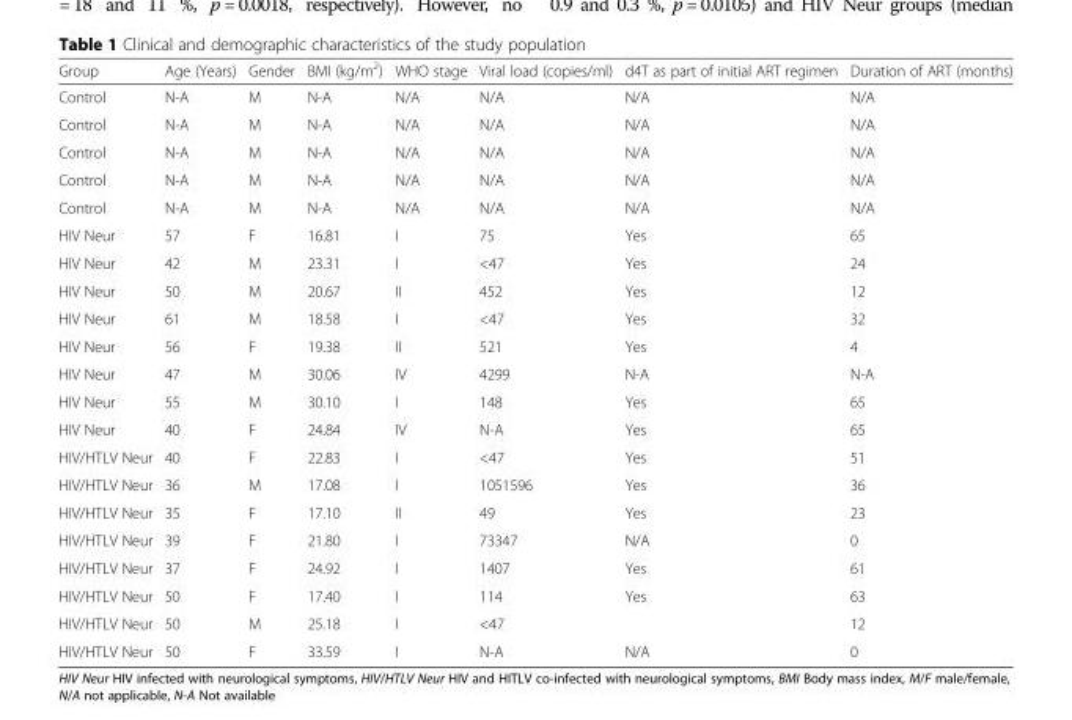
<table><thead><tr><td>Group</td><td>Age (Years)</td><td>Gender</td><td>BMI (kg/m<sup>2</sup>)</td><td>WHO stage</td><td>Viral load (copies/ml)</td><td>d4T as part of initial ART regimen</td><td>Duration of ART (months)</td></tr></thead><tbody><tr><td>Control</td><td>N-A</td><td>M</td><td>N-A</td><td>N/A</td><td>N/A</td><td>N/A</td><td>N/A</td></tr><tr><td>Control</td><td>N-A</td><td>M</td><td>N-A</td><td>N/A</td><td>N/A</td><td>N/A</td><td>N/A</td></tr><tr><td>Control</td><td>N-A</td><td>M</td><td>N-A</td><td>N/A</td><td>N/A</td><td>N/A</td><td>N/A</td></tr><tr><td>Control</td><td>N-A</td><td>M</td><td>N-A</td><td>N/A</td><td>N/A</td><td>N/A</td><td>N/A</td></tr><tr><td>Control</td><td>N-A</td><td>M</td><td>N-A</td><td>N/A</td><td>N/A</td><td>N/A</td><td>N/A</td></tr><tr><td>HIV Neur</td><td>57</td><td>F</td><td>16.81</td><td>I</td><td>75</td><td>Yes</td><td>65</td></tr><tr><td>HIV Neur</td><td>42</td><td>M</td><td>23.31</td><td>I</td><td>&lt;47</td><td>Yes</td><td>24</td></tr><tr><td>HIV Neur</td><td>50</td><td>M</td><td>20.67</td><td>II</td><td>452</td><td>Yes</td><td>12</td></tr><tr><td>HIV Neur</td><td>61</td><td>M</td><td>18.58</td><td>I</td><td>&lt;47</td><td>Yes</td><td>32</td></tr><tr><td>HIV Neur</td><td>56</td><td>F</td><td>19.38</td><td>II</td><td>521</td><td>Yes</td><td>4</td></tr><tr><td>HIV Neur</td><td>47</td><td>M</td><td>30.06</td><td>IV</td><td>4299</td><td>N-A</td><td>N-A</td></tr><tr><td>HIV Neur</td><td>55</td><td>M</td><td>30.10</td><td>I</td><td>148</td><td>Yes</td><td>65</td></tr><tr><td>HIV Neur</td><td>40</td><td>F</td><td>24.84</td><td>IV</td><td>N-A</td><td>Yes</td><td>65</td></tr><tr><td>HIV/HTLV Neur</td><td>40</td><td>F</td><td>22.83</td><td>I</td><td>&lt;47</td><td>Yes</td><td>51</td></tr><tr><td>HIV/HTLV Neur</td><td>36</td><td>M</td><td>17.08</td><td>I</td><td>1051596</td><td>Yes</td><td>36</td></tr><tr><td>HIV/HTLV Neur</td><td>35</td><td>F</td><td>17.10</td><td>II</td><td>49</td><td>Yes</td><td>23</td></tr><tr><td>HIV/HTLV Neur</td><td>39</td><td>F</td><td>21.80</td><td>I</td><td>73347</td><td>N/A</td><td>0</td></tr><tr><td>HIV/HTLV Neur</td><td>37</td><td>F</td><td>24.92</td><td>I</td><td>1407</td><td>Yes</td><td>61</td></tr><tr><td>HIV/HTLV Neur</td><td>50</td><td>F</td><td>17.40</td><td>I</td><td>114</td><td>Yes</td><td>63</td></tr><tr><td>HIV/HTLV Neur</td><td>50</td><td>M</td><td>25.18</td><td>I</td><td>&lt;47</td><td></td><td>12</td></tr><tr><td>HIV/HTLV Neur</td><td>50</td><td>F</td><td>33.59</td><td>I</td><td>N-A</td><td>N/A</td><td>0</td></tr></tbody></table>